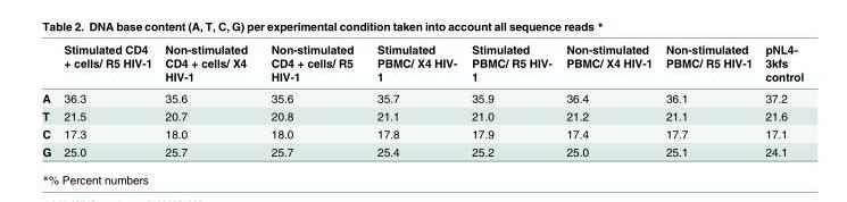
<table><thead><tr><td></td><td>Stimulated CD4 + cells/ R5 HIV-1</td><td>Non-stimulated CD4 + cells/ X4 HIV-1</td><td>Non-stimulated CD4 + cells/ R5 HIV-1</td><td>Stimulated PBMC/ X4 HIV- 1</td><td>Stimulated PBMC/ R5 HIV- 1</td><td>Non-stimulated PBMC/ X4 HIV-1</td><td>Non-stimulated PBMC/ R5 HIV-1</td><td>pNL4- 3kfs control</td></tr></thead><tbody><tr><td>A</td><td>36.3</td><td>35.6</td><td>35.6</td><td>35.7</td><td>35.9</td><td>36.4</td><td>36.1</td><td>37.2</td></tr><tr><td>T</td><td>21.5</td><td>20.7</td><td>20.8</td><td>21.1</td><td>21.0</td><td>21.2</td><td>21.1</td><td>21.6</td></tr><tr><td>C</td><td>17.3</td><td>18.0</td><td>18.0</td><td>17.8</td><td>17.9</td><td>17.4</td><td>17.7</td><td>17.1</td></tr><tr><td>G</td><td>25.0</td><td>25.7</td><td>25.7</td><td>25.4</td><td>25.2</td><td>25.0</td><td>25.1</td><td>24.1</td></tr></tbody></table>